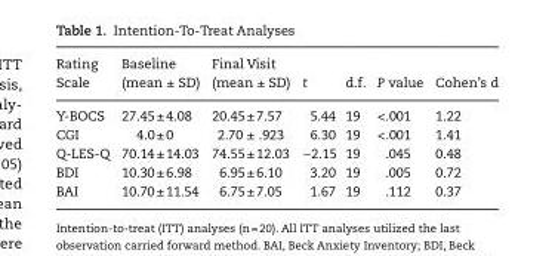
<table><thead><tr><td>Rating Scale</td><td>Baseline (mean ± SD)</td><td>Final Visit (mean ± SD)</td><td>t</td><td>d.f.</td><td>P value</td><td>Cohen’s d</td></tr></thead><tbody><tr><td>Y-BOCS</td><td>27.45 ± 4.08</td><td>20.45 ± 7.57</td><td>5.44</td><td>19</td><td>&lt;.001</td><td>1.22</td></tr><tr><td>CGI</td><td>4.0 ± 0</td><td>2.70 ± .923</td><td>6.30</td><td>19</td><td>&lt;.001</td><td>1.41</td></tr><tr><td>Q-LES-Q</td><td>70.14 ± 14.03</td><td>74.55 ± 12.03</td><td>−2.15</td><td>19</td><td>.045</td><td>0.48</td></tr><tr><td>BDI</td><td>10.30 ± 6.98</td><td>6.95 ± 6.10</td><td>3.20</td><td>19</td><td>.005</td><td>0.72</td></tr><tr><td>BAI</td><td>10.70 ± 11.54</td><td>6.75 ± 7.05</td><td>1.67</td><td>19</td><td>.112</td><td>0.37</td></tr></tbody></table>